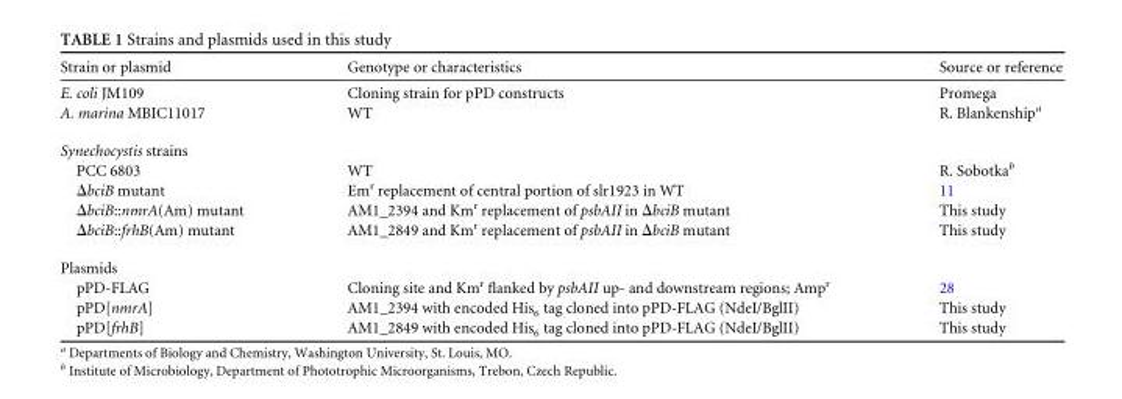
<table><thead><tr><td>Strain or plasmid</td><td>Genotype or characteristics</td><td>Source or reference</td></tr></thead><tbody><tr><td>E. coli JM109</td><td>Cloning strain for pPD constructs</td><td>Promega</td></tr><tr><td>A. marina MBIC11017</td><td>WT</td><td>R. Blankenship<sup>a</sup></td></tr><tr><td colspan="3">Synechocystis strains</td></tr><tr><td>PCC 6803</td><td>WT</td><td>R. Sobotka<sup>b</sup></td></tr><tr><td>ΔbciB mutant</td><td>Em<sup>r</sup> replacement of central portion of slr1923 in WT</td><td>11</td></tr><tr><td>ΔbciB::nmrA(Am) mutant</td><td>AM1_2394 and Km<sup>r</sup> replacement of psbAII in ΔbciB mutant</td><td>This study</td></tr><tr><td>ΔbciB::frhB(Am) mutant</td><td>AM1_2849 and Km<sup>r</sup> replacement of psbAII in ΔbciB mutant</td><td>This study</td></tr><tr><td colspan="3">Plasmids</td></tr><tr><td>pPD-FLAG</td><td>Cloning site and Km<sup>r</sup> flanked by psbAII up- and downstream regions; Amp<sup>r</sup></td><td>28</td></tr><tr><td>pPD[nmrA]</td><td>AM1_2394 with encoded His<sub>6</sub> tag cloned into pPD-FLAG (NdeI/BglII)</td><td>This study</td></tr><tr><td>pPD[frhB]</td><td>AM1_2849 with encoded His<sub>6</sub> tag cloned into pPD-FLAG (NdeI/BglII)</td><td>This study</td></tr></tbody></table>